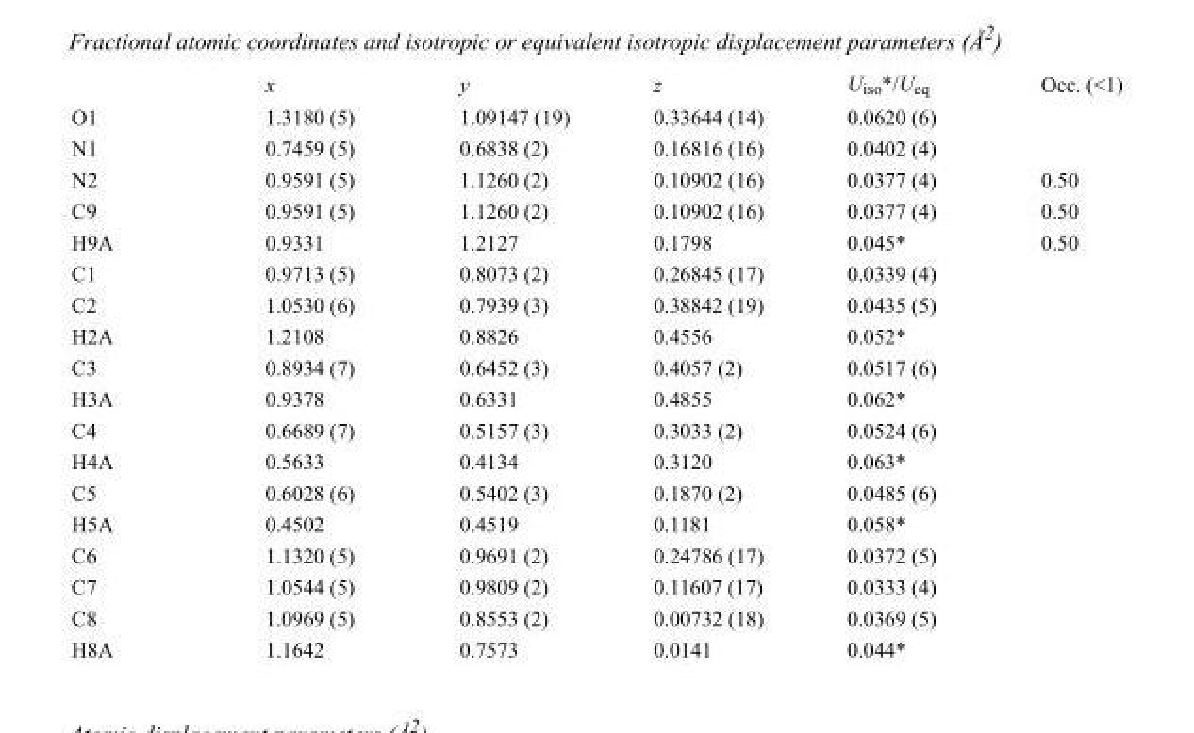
<table><thead><tr><td></td><td>x</td><td>y</td><td>z</td><td>U<sub>iso</sub>*/U<sub>eq</sub></td><td>Occ. (&lt;1)</td></tr></thead><tbody><tr><td>O1</td><td>1.3180 (5)</td><td>1.09147 (19)</td><td>0.33644 (14)</td><td>0.0620 (6)</td><td></td></tr><tr><td>N1</td><td>0.7459 (5)</td><td>0.6838 (2)</td><td>0.16816 (16)</td><td>0.0402 (4)</td><td></td></tr><tr><td>N2</td><td>0.9591 (5)</td><td>1.1260 (2)</td><td>0.10902 (16)</td><td>0.0377 (4)</td><td>0.50</td></tr><tr><td>C9</td><td>0.9591 (5)</td><td>1.1260 (2)</td><td>0.10902 (16)</td><td>0.0377 (4)</td><td>0.50</td></tr><tr><td>H9A</td><td>0.9331</td><td>1.2127</td><td>0.1798</td><td>0.045*</td><td>0.50</td></tr><tr><td>C1</td><td>0.9713 (5)</td><td>0.8073 (2)</td><td>0.26845 (17)</td><td>0.0339 (4)</td><td></td></tr><tr><td>C2</td><td>1.0530 (6)</td><td>0.7939 (3)</td><td>0.38842 (19)</td><td>0.0435 (5)</td><td></td></tr><tr><td>H2A</td><td>1.2108</td><td>0.8826</td><td>0.4556</td><td>0.052*</td><td></td></tr><tr><td>C3</td><td>0.8934 (7)</td><td>0.6452 (3)</td><td>0.4057 (2)</td><td>0.0517 (6)</td><td></td></tr><tr><td>H3A</td><td>0.9378</td><td>0.6331</td><td>0.4855</td><td>0.062*</td><td></td></tr><tr><td>C4</td><td>0.6689 (7)</td><td>0.5157 (3)</td><td>0.3033 (2)</td><td>0.0524 (6)</td><td></td></tr><tr><td>H4A</td><td>0.5633</td><td>0.4134</td><td>0.3120</td><td>0.063*</td><td></td></tr><tr><td>C5</td><td>0.6028 (6)</td><td>0.5402 (3)</td><td>0.1870 (2)</td><td>0.0485 (6)</td><td></td></tr><tr><td>H5A</td><td>0.4502</td><td>0.4519</td><td>0.1181</td><td>0.058*</td><td></td></tr><tr><td>C6</td><td>1.1320 (5)</td><td>0.9691 (2)</td><td>0.24786 (17)</td><td>0.0372 (5)</td><td></td></tr><tr><td>C7</td><td>1.0544 (5)</td><td>0.9809 (2)</td><td>0.11607 (17)</td><td>0.0333 (4)</td><td></td></tr><tr><td>C8</td><td>1.0969 (5)</td><td>0.8553 (2)</td><td>0.00732 (18)</td><td>0.0369 (5)</td><td></td></tr><tr><td>H8A</td><td>1.1642</td><td>0.7573</td><td>0.0141</td><td>0.044*</td><td></td></tr></tbody></table>